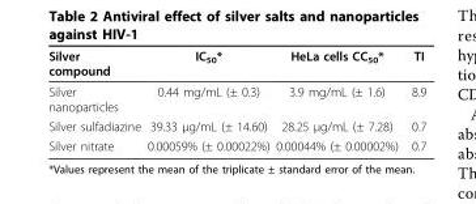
<table><thead><tr><td>Silver compound</td><td>IC<sub>50</sub>*</td><td>HeLa cells CC<sub>50</sub>*</td><td>TI</td></tr></thead><tbody><tr><td>Silver nanoparticles</td><td>0.44 mg/mL (± 0.3)</td><td>3.9 mg/mL (± 1.6)</td><td>8.9</td></tr><tr><td>Silver sulfadiazine</td><td>39.33 μg/mL (± 14.60)</td><td>28.25 μg/mL (± 7.28)</td><td>0.7</td></tr><tr><td>Silver nitrate</td><td>0.00059% (± 0.00022%)</td><td>0.00044% (± 0.00002%)</td><td>0.7</td></tr></tbody></table>